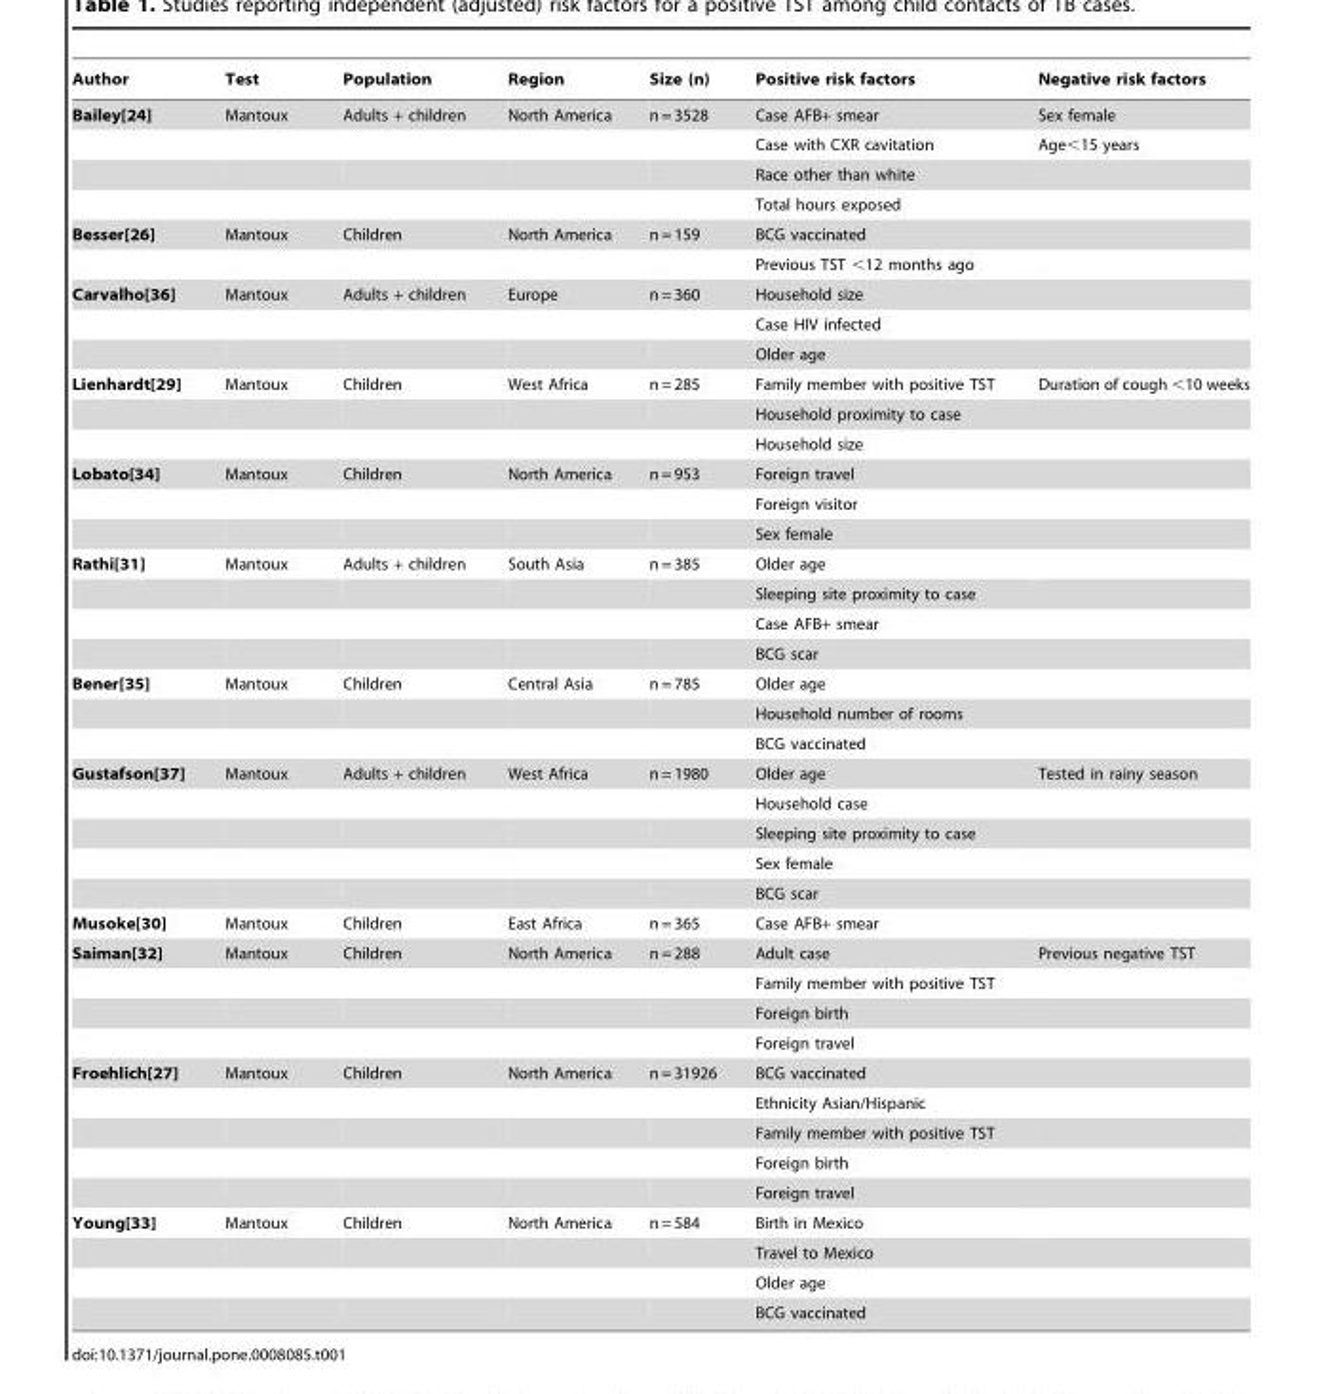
<table><thead><tr><td>Author</td><td>Test</td><td>Population</td><td>Region</td><td>Size (n)</td><td>Positive risk factors</td><td>Negative risk factors</td></tr></thead><tbody><tr><td rowspan="4">Bailey[24]</td><td>Mantoux</td><td>Adults + children</td><td>North America</td><td>n = 3528</td><td>Case AFB+ smear</td><td>Sex female</td></tr><tr><td></td><td></td><td></td><td></td><td>Case with CXR cavitation</td><td>Age&lt;15 years</td></tr><tr><td></td><td></td><td></td><td></td><td>Race other than white</td><td></td></tr><tr><td></td><td></td><td></td><td></td><td>Total hours exposed</td><td></td></tr><tr><td rowspan="2">Besser[26]</td><td>Mantoux</td><td>Children</td><td>North America</td><td>n = 159</td><td>BCG vaccinated</td><td></td></tr><tr><td></td><td></td><td></td><td></td><td>Previous TST &lt;12 months ago</td><td></td></tr><tr><td rowspan="3">Carvalho[36]</td><td>Mantoux</td><td>Adults + children</td><td>Europe</td><td>n = 360</td><td>Household size</td><td></td></tr><tr><td></td><td></td><td></td><td></td><td>Case HIV infected</td><td></td></tr><tr><td></td><td></td><td></td><td></td><td>Older age</td><td></td></tr><tr><td rowspan="3">Lienhardt[29]</td><td>Mantoux</td><td>Children</td><td>West Africa</td><td>n = 285</td><td>Family member with positive TST</td><td>Duration of cough &lt;10 weeks</td></tr><tr><td></td><td></td><td></td><td></td><td>Household proximity to case</td><td></td></tr><tr><td></td><td></td><td></td><td></td><td>Household size</td><td></td></tr><tr><td rowspan="3">Lobato[34]</td><td>Mantoux</td><td>Children</td><td>North America</td><td>n = 953</td><td>Foreign travel</td><td></td></tr><tr><td></td><td></td><td></td><td></td><td>Foreign visitor</td><td></td></tr><tr><td></td><td></td><td></td><td></td><td>Sex female</td><td></td></tr><tr><td rowspan="4">Rathi[31]</td><td>Mantoux</td><td>Adults + children</td><td>South Asia</td><td>n = 385</td><td>Older age</td><td></td></tr><tr><td></td><td></td><td></td><td></td><td>Sleeping site proximity to case</td><td></td></tr><tr><td></td><td></td><td></td><td></td><td>Case AFB+ smear</td><td></td></tr><tr><td></td><td></td><td></td><td></td><td>BCG scar</td><td></td></tr><tr><td rowspan="3">Bener[35]</td><td>Mantoux</td><td>Children</td><td>Central Asia</td><td>n = 785</td><td>Older age</td><td></td></tr><tr><td></td><td></td><td></td><td></td><td>Household number of rooms</td><td></td></tr><tr><td></td><td></td><td></td><td></td><td>BCG vaccinated</td><td></td></tr><tr><td rowspan="5">Gustafson[37]</td><td>Mantoux</td><td>Adults + children</td><td>West Africa</td><td>n = 1980</td><td>Older age</td><td>Tested in rainy season</td></tr><tr><td></td><td></td><td></td><td></td><td>Household case</td><td></td></tr><tr><td></td><td></td><td></td><td></td><td>Sleeping site proximity to case</td><td></td></tr><tr><td></td><td></td><td></td><td></td><td>Sex female</td><td></td></tr><tr><td></td><td></td><td></td><td></td><td>BCG scar</td><td></td></tr><tr><td>Musoke[30]</td><td>Mantoux</td><td>Children</td><td>East Africa</td><td>n = 365</td><td>Case AFB+ smear</td><td></td></tr><tr><td rowspan="4">Saiman[32]</td><td>Mantoux</td><td>Children</td><td>North America</td><td>n = 288</td><td>Adult case</td><td>Previous negative TST</td></tr><tr><td></td><td></td><td></td><td></td><td>Family member with positive TST</td><td></td></tr><tr><td></td><td></td><td></td><td></td><td>Foreign birth</td><td></td></tr><tr><td></td><td></td><td></td><td></td><td>Foreign travel</td><td></td></tr><tr><td rowspan="5">Froehlich[27]</td><td>Mantoux</td><td>Children</td><td>North America</td><td>n = 31926</td><td>BCG vaccinated</td><td></td></tr><tr><td></td><td></td><td></td><td></td><td>Ethnicity Asian/Hispanic</td><td></td></tr><tr><td></td><td></td><td></td><td></td><td>Family member with positive TST</td><td></td></tr><tr><td></td><td></td><td></td><td></td><td>Foreign birth</td><td></td></tr><tr><td></td><td></td><td></td><td></td><td>Foreign travel</td><td></td></tr><tr><td rowspan="4">Young[33]</td><td>Mantoux</td><td>Children</td><td>North America</td><td>n = 584</td><td>Birth in Mexico</td><td></td></tr><tr><td></td><td></td><td></td><td></td><td>Travel to Mexico</td><td></td></tr><tr><td></td><td></td><td></td><td></td><td>Older age</td><td></td></tr><tr><td></td><td></td><td></td><td></td><td>BCG vaccinated</td><td></td></tr></tbody></table>